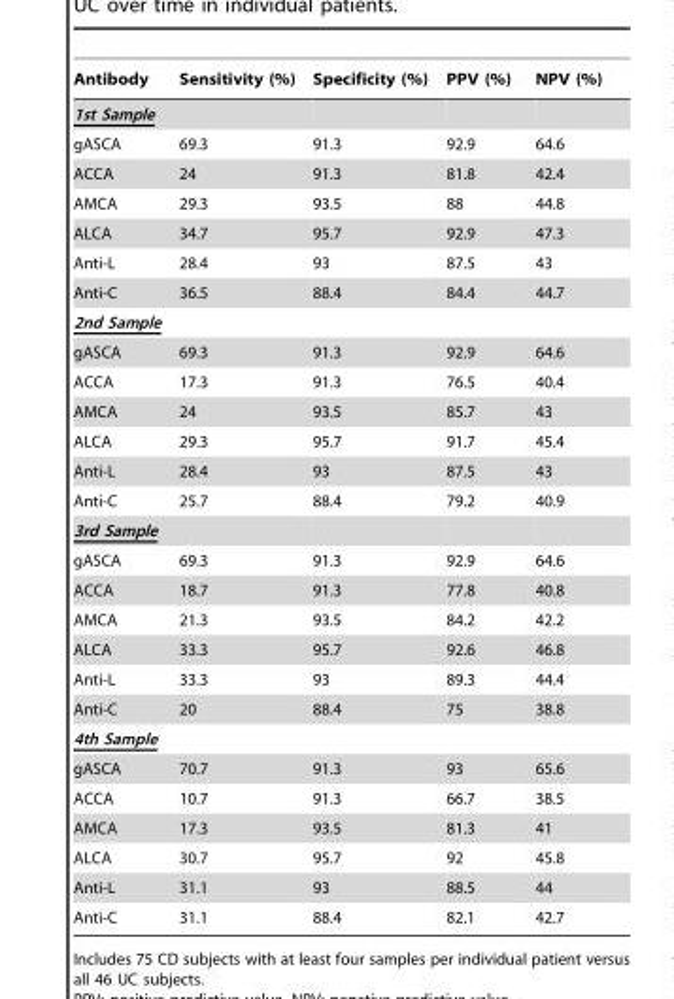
<table><thead><tr><td>Antibody</td><td>Sensitivity (%)</td><td>Specificity (%)</td><td>PPV (%)</td><td>NPV (%)</td></tr></thead><tbody><tr><td colspan="5">1st Sample</td></tr><tr><td>gASCA</td><td>69.3</td><td>91.3</td><td>92.9</td><td>64.6</td></tr><tr><td>ACCA</td><td>24</td><td>91.3</td><td>81.8</td><td>42.4</td></tr><tr><td>AMCA</td><td>29.3</td><td>93.5</td><td>88</td><td>44.8</td></tr><tr><td>ALCA</td><td>34.7</td><td>95.7</td><td>92.9</td><td>47.3</td></tr><tr><td>Anti-L</td><td>28.4</td><td>93</td><td>87.5</td><td>43</td></tr><tr><td>Anti-C</td><td>36.5</td><td>88.4</td><td>84.4</td><td>44.7</td></tr><tr><td colspan="5">2nd Sample</td></tr><tr><td>gASCA</td><td>69.3</td><td>91.3</td><td>92.9</td><td>64.6</td></tr><tr><td>ACCA</td><td>17.3</td><td>91.3</td><td>76.5</td><td>40.4</td></tr><tr><td>AMCA</td><td>24</td><td>93.5</td><td>85.7</td><td>43</td></tr><tr><td>ALCA</td><td>29.3</td><td>95.7</td><td>91.7</td><td>45.4</td></tr><tr><td>Anti-L</td><td>28.4</td><td>93</td><td>87.5</td><td>43</td></tr><tr><td>Anti-C</td><td>25.7</td><td>88.4</td><td>79.2</td><td>40.9</td></tr><tr><td colspan="5">3rd Sample</td></tr><tr><td>gASCA</td><td>69.3</td><td>91.3</td><td>92.9</td><td>64.6</td></tr><tr><td>ACCA</td><td>18.7</td><td>91.3</td><td>77.8</td><td>40.8</td></tr><tr><td>AMCA</td><td>21.3</td><td>93.5</td><td>84.2</td><td>42.2</td></tr><tr><td>ALCA</td><td>33.3</td><td>95.7</td><td>92.6</td><td>46.8</td></tr><tr><td>Anti-L</td><td>33.3</td><td>93</td><td>89.3</td><td>44.4</td></tr><tr><td>Anti-C</td><td>20</td><td>88.4</td><td>75</td><td>38.8</td></tr><tr><td colspan="5">4th Sample</td></tr><tr><td>gASCA</td><td>70.7</td><td>91.3</td><td>93</td><td>65.6</td></tr><tr><td>ACCA</td><td>10.7</td><td>91.3</td><td>66.7</td><td>38.5</td></tr><tr><td>AMCA</td><td>17.3</td><td>93.5</td><td>81.3</td><td>41</td></tr><tr><td>ALCA</td><td>30.7</td><td>95.7</td><td>92</td><td>45.8</td></tr><tr><td>Anti-L</td><td>31.1</td><td>93</td><td>88.5</td><td>44</td></tr><tr><td>Anti-C</td><td>31.1</td><td>88.4</td><td>82.1</td><td>42.7</td></tr></tbody></table>